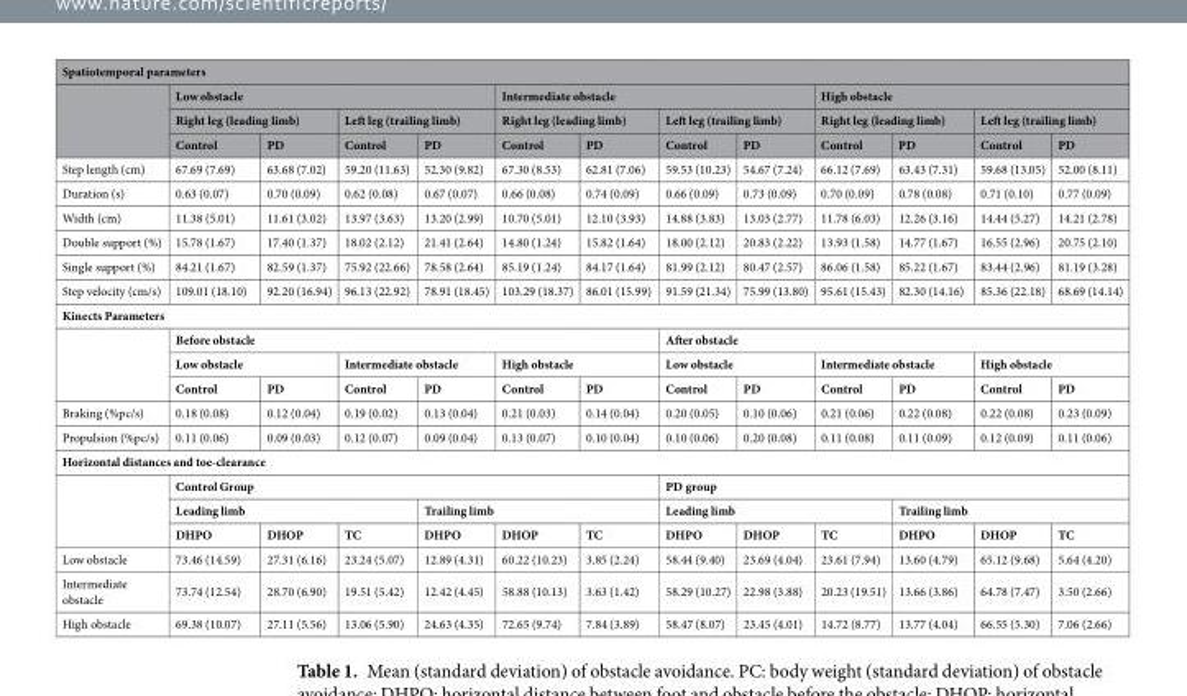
<table><thead><tr><td colspan="13">Spatiotemporal parameters</td></tr><tr><td rowspan="3"></td><td colspan="4">Low obstacle</td><td colspan="4">Intermediate obstacle</td><td colspan="4">High obstacle</td></tr><tr><td colspan="2">Right leg (leading limb)</td><td colspan="2">Left leg (trailing limb)</td><td colspan="2">Right leg (leading limb)</td><td colspan="2">Left leg (trailing limb)</td><td colspan="2">Right leg (leading limb)</td><td colspan="2">Left leg (trailing limb)</td></tr><tr><td>Control</td><td>PD</td><td>Control</td><td>PD</td><td>Control</td><td>PD</td><td>Control</td><td>PD</td><td>Control</td><td>PD</td><td>Control</td><td>PD</td></tr></thead><tbody><tr><td>Step length (cm)</td><td>67.69 (7.69)</td><td>63.68 (7.02)</td><td>59.20 (11.63)</td><td>52.30 (9.82)</td><td>67.30 (8.53)</td><td>62.81 (7.06)</td><td>59.53 (10.23)</td><td>54.67 (7.24)</td><td>66.12 (7.69)</td><td>63.43 (7.31)</td><td>59.68 (13.05)</td><td>52.00 (8.11)</td></tr><tr><td>Duration (s)</td><td>0.63 (0.07)</td><td>0.70 (0.09)</td><td>0.62 (0.08)</td><td>0.67 (0.07)</td><td>0.66 (0.08)</td><td>0.74 (0.09)</td><td>0.66 (0.09)</td><td>0.73 (0.09)</td><td>0.70 (0.09)</td><td>0.78 (0.08)</td><td>0.71 (0.10)</td><td>0.77 (0.09)</td></tr><tr><td>Width (cm)</td><td>11.38 (5.01)</td><td>11.61 (3.02)</td><td>13.97 (3.63)</td><td>13.20 (2.99)</td><td>10.70 (5.01)</td><td>12.10 (3.93)</td><td>14.88 (3.83)</td><td>13.03 (2.77)</td><td>11.78 (6.03)</td><td>12.26 (3.16)</td><td>14.44 (5.27)</td><td>14.21 (2.78)</td></tr><tr><td>Double support (%)</td><td>15.78 (1.67)</td><td>17.40 (1.37)</td><td>18.02 (2.12)</td><td>21.41 (2.64)</td><td>14.80 (1.24)</td><td>15.82 (1.64)</td><td>18.00 (2.12)</td><td>20.83 (2.22)</td><td>13.93 (1.58)</td><td>14.77 (1.67)</td><td>16.55 (2.96)</td><td>20.75 (2.10)</td></tr><tr><td>Single support (%)</td><td>84.21 (1.67)</td><td>82.59 (1.37)</td><td>75.92 (22.66)</td><td>78.58 (2.64)</td><td>85.19 (1.24)</td><td>84.17 (1.64)</td><td>81.99 (2.12)</td><td>80.47 (2.57)</td><td>86.06 (1.58)</td><td>85.22 (1.67)</td><td>83.44 (2.96)</td><td>81.19 (3.28)</td></tr><tr><td>Step velocity (cm/s)</td><td>109.01 (18.10)</td><td>92.20 (16.94)</td><td>96.13 (22.92)</td><td>78.91 (18.45)</td><td>103.29 (18.37)</td><td>86.01 (15.99)</td><td>91.59 (21.34)</td><td>75.99 (13.80)</td><td>95.61 (15.43)</td><td>82.30 (14.16)</td><td>85.36 (22.18)</td><td>68.69 (14.14)</td></tr><tr><td colspan="13">Kinects Parameters</td></tr><tr><td rowspan="3"></td><td colspan="6">Before obstacle</td><td colspan="6">After obstacle</td></tr><tr><td colspan="2">Low obstacle</td><td colspan="2">Intermediate obstacle</td><td colspan="2">High obstacle</td><td colspan="2">Low obstacle</td><td colspan="2">Intermediate obstacle</td><td colspan="2">High obstacle</td></tr><tr><td>Control</td><td>PD</td><td>Control</td><td>PD</td><td>Control</td><td>PD</td><td>Control</td><td>PD</td><td>Control</td><td>PD</td><td>Control</td><td>PD</td></tr><tr><td>Braking (%pc/s)</td><td>0.18 (0.08)</td><td>0.12 (0.04)</td><td>0.19 (0.02)</td><td>0.13 (0.04)</td><td>0.21 (0.03)</td><td>0.14 (0.04)</td><td>0.20 (0.05)</td><td>0.10 (0.06)</td><td>0.21 (0.06)</td><td>0.22 (0.08)</td><td>0.22 (0.08)</td><td>0.23 (0.09)</td></tr><tr><td>Propulsion (%pc/s)</td><td>0.11 (0.06)</td><td>0.09 (0.03)</td><td>0.12 (0.07)</td><td>0.09 (0.04)</td><td>0.13 (0.07)</td><td>0.10 (0.04)</td><td>0.10 (0.06)</td><td>0.20 (0.08)</td><td>0.11 (0.08)</td><td>0.11 (0.09)</td><td>0.12 (0.09)</td><td>0.11 (0.06)</td></tr><tr><td colspan="13">Horizontal distances and toe-clearance</td></tr><tr><td rowspan="3"></td><td colspan="6">Control Group</td><td colspan="6">PD group</td></tr><tr><td colspan="3">Leading limb</td><td colspan="3">Trailing limb</td><td colspan="3">Leading limb</td><td colspan="3">Trailing limb</td></tr><tr><td>DHPO</td><td>DHOP</td><td>TC</td><td>DHPO</td><td>DHOP</td><td>TC</td><td>DHPO</td><td>DHOP</td><td>TC</td><td>DHPO</td><td>DHOP</td><td>TC</td></tr><tr><td>Low obstacle</td><td>73.46 (14.59)</td><td>27.31 (6.16)</td><td>23.24 (5.07)</td><td>12.89 (4.31)</td><td>60.22 (10.23)</td><td>3.85 (2.24)</td><td>58.44 (9.40)</td><td>23.69 (4.04)</td><td>23.61 (7.94)</td><td>13.60 (4.79)</td><td>65.12 (9.68)</td><td>5.64 (4.20)</td></tr><tr><td>Intermediate obstacle</td><td>73.74 (12.54)</td><td>28.70 (6.90)</td><td>19.51 (5.42)</td><td>12.42 (4.45)</td><td>58.88 (10.13)</td><td>3.63 (1.42)</td><td>58.29 (10.27)</td><td>22.98 (3.88)</td><td>20.23 (19.51)</td><td>13.66 (3.86)</td><td>64.78 (7.47)</td><td>3.50 (2.66)</td></tr><tr><td>High obstacle</td><td>69.38 (10.07)</td><td>27.11 (5.56)</td><td>13.06 (5.90)</td><td>24.63 (4.35)</td><td>72.65 (9.74)</td><td>7.84 (3.89)</td><td>58.47 (8.07)</td><td>23.45 (4.01)</td><td>14.72 (8.77)</td><td>13.77 (4.04)</td><td>66.55 (5.30)</td><td>7.06 (2.66)</td></tr></tbody></table>